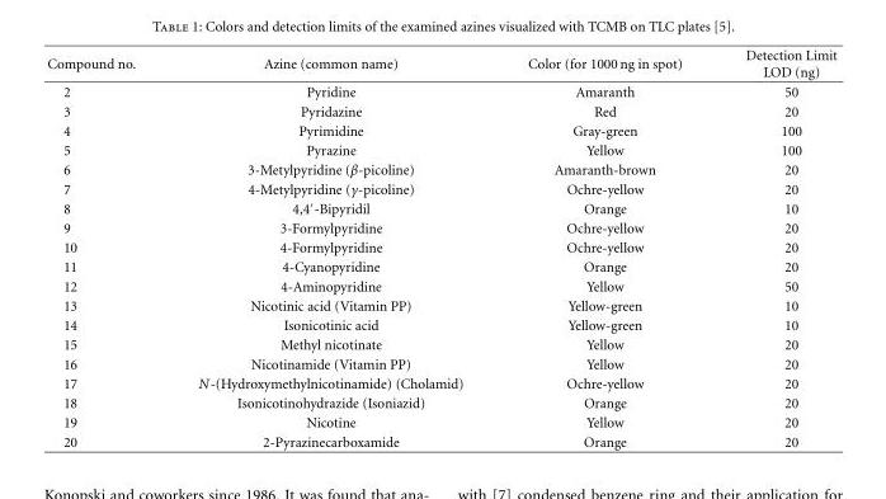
<table><thead><tr><td>Compound no.</td><td>Azine (common name)</td><td>Color (for 1000 ng in spot)</td><td>Detection Limit LOD (ng)</td></tr></thead><tbody><tr><td>2</td><td>Pyridine</td><td>Amaranth</td><td>50</td></tr><tr><td>3</td><td>Pyridazine</td><td>Red</td><td>20</td></tr><tr><td>4</td><td>Pyrimidine</td><td>Gray-green</td><td>100</td></tr><tr><td>5</td><td>Pyrazine</td><td>Yellow</td><td>100</td></tr><tr><td>6</td><td>3-Metylpyridine (β-picoline)</td><td>Amaranth-brown</td><td>20</td></tr><tr><td>7</td><td>4-Metylpyridine (γ-picoline)</td><td>Ochre-yellow</td><td>20</td></tr><tr><td>8</td><td>4,4′-Bipyridil</td><td>Orange</td><td>10</td></tr><tr><td>9</td><td>3-Formylpyridine</td><td>Ochre-yellow</td><td>20</td></tr><tr><td>10</td><td>4-Formylpyridine</td><td>Ochre-yellow</td><td>20</td></tr><tr><td>11</td><td>4-Cyanopyridine</td><td>Orange</td><td>20</td></tr><tr><td>12</td><td>4-Aminopyridine</td><td>Yellow</td><td>50</td></tr><tr><td>13</td><td>Nicotinic acid (Vitamin PP)</td><td>Yellow-green</td><td>10</td></tr><tr><td>14</td><td>Isonicotinic acid</td><td>Yellow-green</td><td>10</td></tr><tr><td>15</td><td>Methyl nicotinate</td><td>Yellow</td><td>20</td></tr><tr><td>16</td><td>Nicotinamide (Vitamin PP)</td><td>Yellow</td><td>20</td></tr><tr><td>17</td><td>N-(Hydroxymethylnicotinamide) (Cholamid)</td><td>Ochre-yellow</td><td>20</td></tr><tr><td>18</td><td>Isonicotinohydrazide (Isoniazid)</td><td>Orange</td><td>20</td></tr><tr><td>19</td><td>Nicotine</td><td>Yellow</td><td>20</td></tr><tr><td>20</td><td>2-Pyrazinecarboxamide</td><td>Orange</td><td>20</td></tr></tbody></table>